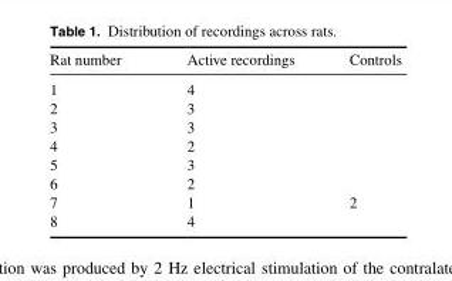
<table><thead><tr><td>Rat number</td><td>Active recordings</td><td>Controls</td></tr></thead><tbody><tr><td>1</td><td>4</td><td></td></tr><tr><td>2</td><td>3</td><td></td></tr><tr><td>3</td><td>3</td><td></td></tr><tr><td>4</td><td>2</td><td></td></tr><tr><td>5</td><td>3</td><td></td></tr><tr><td>6</td><td>2</td><td></td></tr><tr><td>7</td><td>1</td><td>2</td></tr><tr><td>8</td><td>4</td><td></td></tr></tbody></table>